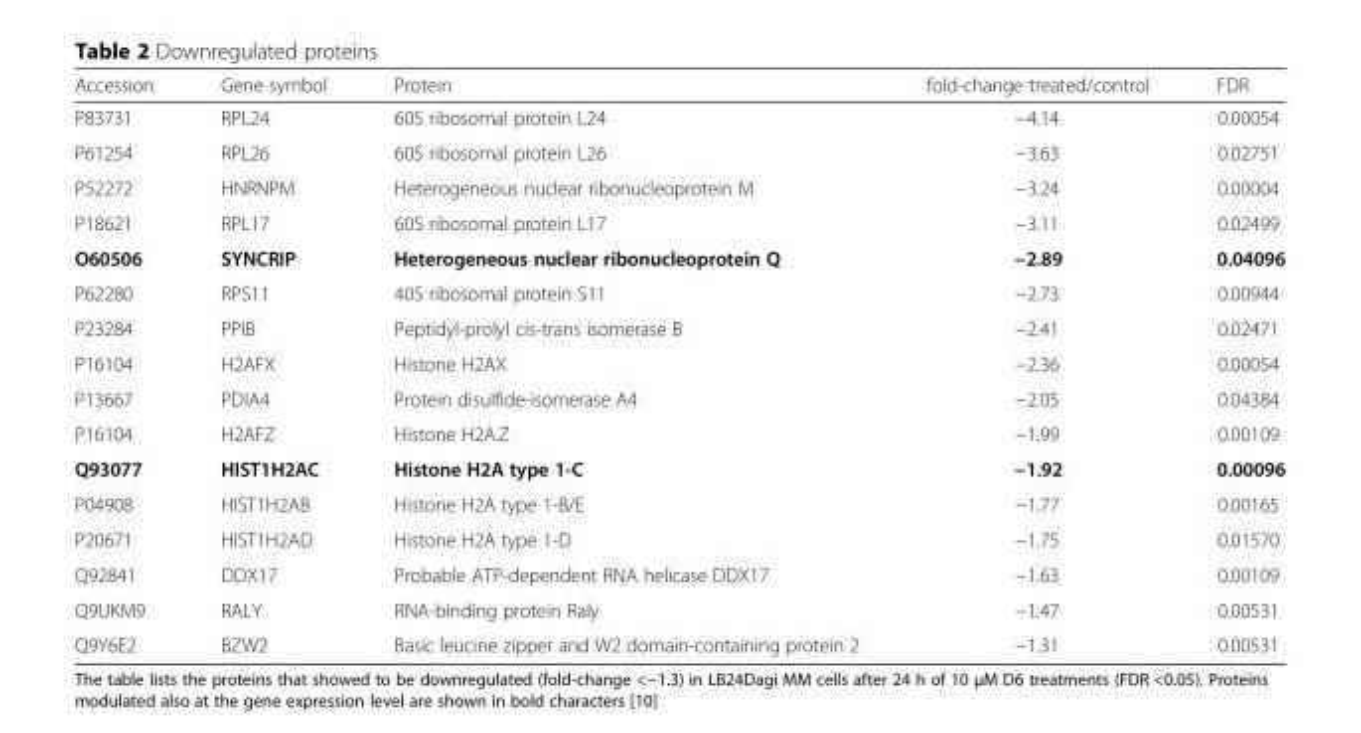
<table><thead><tr><td>Accession</td><td>Gene symbol</td><td>Protein</td><td>fold-change treated/control</td><td>FDR</td></tr></thead><tbody><tr><td>P83731</td><td>RPL24</td><td>60S ribosomal protein L24</td><td>−4.14</td><td>0.00054</td></tr><tr><td>P61254</td><td>RPL26</td><td>60S ribosomal protein L26</td><td>−3.63</td><td>0.02751</td></tr><tr><td>P52272</td><td>HNRNPM</td><td>Heterogeneous nuclear ribonucleoprotein M</td><td>−3.24</td><td>0.00004</td></tr><tr><td>P18621</td><td>RPL17</td><td>60S ribosomal protein L17</td><td>−3.11</td><td>0.02499</td></tr><tr><td>O60506</td><td>SYNCRIP</td><td>Heterogeneous nuclear ribonucleoprotein Q</td><td>−2.89</td><td>0.04096</td></tr><tr><td>P62280</td><td>RPS11</td><td>40S ribosomal protein S11</td><td>−2.73</td><td>0.00944</td></tr><tr><td>P23284</td><td>PPIB</td><td>Peptidyl-prolyl cis-trans isomerase B</td><td>−2.41</td><td>0.02471</td></tr><tr><td>P16104</td><td>H2AFX</td><td>Histone H2AX</td><td>−2.36</td><td>0.00054</td></tr><tr><td>P13667</td><td>PDIA4</td><td>Protein disulfide-isomerase A4</td><td>−2.05</td><td>0.04384</td></tr><tr><td>P16104</td><td>H2AFZ</td><td>Histone H2A.Z</td><td>−1.99</td><td>0.00109</td></tr><tr><td>Q93077</td><td>HIST1H2AC</td><td>Histone H2A type 1-C</td><td>−1.92</td><td>0.00096</td></tr><tr><td>P04908</td><td>HIST1H2AB</td><td>Histone H2A type 1-B/E</td><td>−1.77</td><td>0.00165</td></tr><tr><td>P20671</td><td>HIST1H2AD</td><td>Histone H2A type 1-D</td><td>−1.75</td><td>0.01570</td></tr><tr><td>Q92841</td><td>DDX17</td><td>Probable ATP-dependent RNA helicase DDX17</td><td>−1.63</td><td>0.00109</td></tr><tr><td>Q9UKM9</td><td>RALY</td><td>RNA-binding protein Raly</td><td>−1.47</td><td>0.00531</td></tr><tr><td>Q9Y6E2</td><td>BZW2</td><td>Basic leucine zipper and W2 domain-containing protein 2</td><td>−1.31</td><td>0.00531</td></tr></tbody></table>